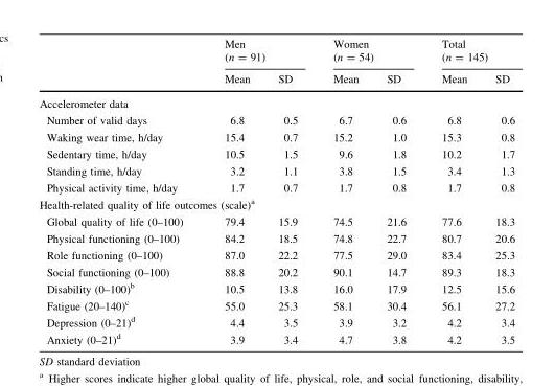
<table><thead><tr><td rowspan="2"></td><td colspan="2">Men (n = 91)</td><td colspan="2">Women (n = 54)</td><td colspan="2">Total (n = 145)</td></tr><tr><td>Mean</td><td>SD</td><td>Mean</td><td>SD</td><td>Mean</td><td>SD</td></tr></thead><tbody><tr><td colspan="7">Accelerometer data</td></tr><tr><td>Number of valid days</td><td>6.8</td><td>0.5</td><td>6.7</td><td>0.6</td><td>6.8</td><td>0.6</td></tr><tr><td>Waking wear time, h/day</td><td>15.4</td><td>0.7</td><td>15.2</td><td>1.0</td><td>15.3</td><td>0.8</td></tr><tr><td>Sedentary time, h/day</td><td>10.5</td><td>1.5</td><td>9.6</td><td>1.8</td><td>10.2</td><td>1.7</td></tr><tr><td>Standing time, h/day</td><td>3.2</td><td>1.1</td><td>3.8</td><td>1.5</td><td>3.4</td><td>1.3</td></tr><tr><td>Physical activity time, h/day</td><td>1.7</td><td>0.7</td><td>1.7</td><td>0.8</td><td>1.7</td><td>0.8</td></tr><tr><td colspan="7">Health-related quality of life outcomes (scale)<sup>a</sup></td></tr><tr><td>Global quality of life (0–100)</td><td>79.4</td><td>15.9</td><td>74.5</td><td>21.6</td><td>77.6</td><td>18.3</td></tr><tr><td>Physical functioning (0–100)</td><td>84.2</td><td>18.5</td><td>74.8</td><td>22.7</td><td>80.7</td><td>20.6</td></tr><tr><td>Role functioning (0–100)</td><td>87.0</td><td>22.2</td><td>77.5</td><td>29.0</td><td>83.4</td><td>25.3</td></tr><tr><td>Social functioning (0–100)</td><td>88.8</td><td>20.2</td><td>90.1</td><td>14.7</td><td>89.3</td><td>18.3</td></tr><tr><td>Disability (0–100)<sup>b</sup></td><td>10.5</td><td>13.8</td><td>16.0</td><td>17.9</td><td>12.5</td><td>15.6</td></tr><tr><td>Fatigue (20–140)<sup>c</sup></td><td>55.0</td><td>25.3</td><td>58.1</td><td>30.4</td><td>56.1</td><td>27.2</td></tr><tr><td>Depression (0–21)<sup>d</sup></td><td>4.4</td><td>3.5</td><td>3.9</td><td>3.2</td><td>4.2</td><td>3.4</td></tr><tr><td>Anxiety (0–21)<sup>d</sup></td><td>3.9</td><td>3.4</td><td>4.7</td><td>3.8</td><td>4.2</td><td>3.5</td></tr></tbody></table>